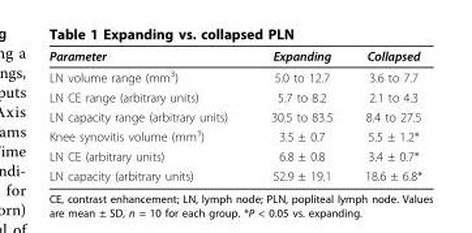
<table><thead><tr><td>Parameter</td><td>Expanding</td><td>Collapsed</td></tr></thead><tbody><tr><td>LN volume range (mm<sup>3</sup>)</td><td>5.0 to 12.7</td><td>3.6 to 7.7</td></tr><tr><td>LN CE range (arbitrary units)</td><td>5.7 to 8.2</td><td>2.1 to 4.3</td></tr><tr><td>LN capacity range (arbitrary units)</td><td>30.5 to 83.5</td><td>8.4 to 27.5</td></tr><tr><td>Knee synovitis volume (mm<sup>3</sup>)</td><td>3.5 ± 0.7</td><td>5.5 ± 1.2*</td></tr><tr><td>LN CE (arbitrary units)</td><td>6.8 ± 0.8</td><td>3.4 ± 0.7*</td></tr><tr><td>LN capacity (arbitrary units)</td><td>52.9 ± 19.1</td><td>18.6 ± 6.8*</td></tr></tbody></table>